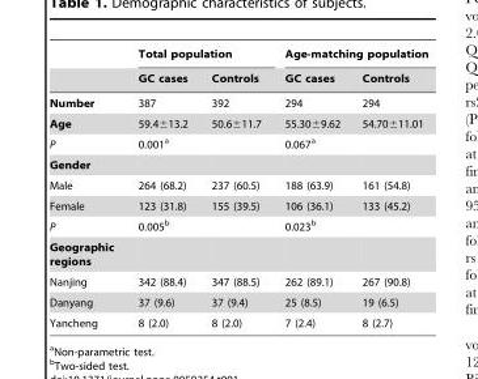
<table><thead><tr><td rowspan="2"></td><td colspan="2">Total population</td><td colspan="2">Age-matching population</td></tr><tr><td>GC cases</td><td>Controls</td><td>GC cases</td><td>Controls</td></tr></thead><tbody><tr><td>Number</td><td>387</td><td>392</td><td>294</td><td>294</td></tr><tr><td>Age</td><td>59.4±13.2</td><td>50.6±11.7</td><td>55.30±9.62</td><td>54.70±11.01</td></tr><tr><td>P</td><td>0.001<sup>a</sup></td><td></td><td>0.067<sup>a</sup></td><td></td></tr><tr><td colspan="5">Gender</td></tr><tr><td>Male</td><td>264 (68.2)</td><td>237 (60.5)</td><td>188 (63.9)</td><td>161 (54.8)</td></tr><tr><td>Female</td><td>123 (31.8)</td><td>155 (39.5)</td><td>106 (36.1)</td><td>133 (45.2)</td></tr><tr><td>P</td><td>0.005<sup>b</sup></td><td></td><td>0.023<sup>b</sup></td><td></td></tr><tr><td colspan="5">Geographic regions</td></tr><tr><td>Nanjing</td><td>342 (88.4)</td><td>347 (88.5)</td><td>262 (89.1)</td><td>267 (90.8)</td></tr><tr><td>Danyang</td><td>37 (9.6)</td><td>37 (9.4)</td><td>25 (8.5)</td><td>19 (6.5)</td></tr><tr><td>Yancheng</td><td>8 (2.0)</td><td>8 (2.0)</td><td>7 (2.4)</td><td>8 (2.7)</td></tr></tbody></table>